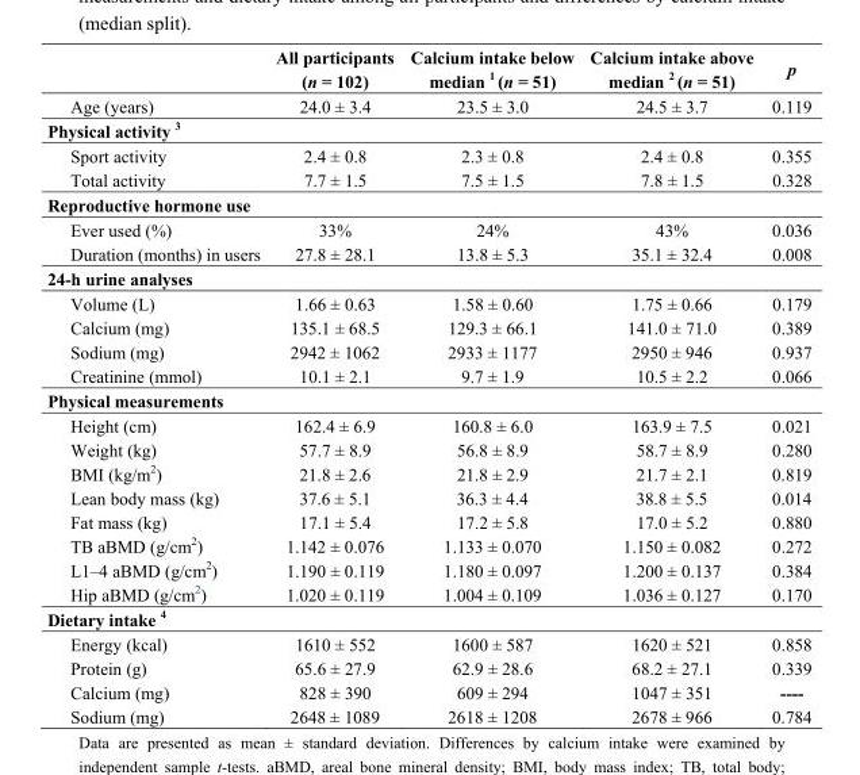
<table><thead><tr><td></td><td>All participants (n = 102)</td><td>Calcium intake below median <sup>1</sup> (n = 51)</td><td>Calcium intake above median <sup>2</sup> (n = 51)</td><td>p</td></tr></thead><tbody><tr><td>Age (years)</td><td>24.0 ± 3.4</td><td>23.5 ± 3.0</td><td>24.5 ± 3.7</td><td>0.119</td></tr><tr><td colspan="5">Physical activity <sup>3</sup></td></tr><tr><td>Sport activity</td><td>2.4 ± 0.8</td><td>2.3 ± 0.8</td><td>2.4 ± 0.8</td><td>0.355</td></tr><tr><td>Total activity</td><td>7.7 ± 1.5</td><td>7.5 ± 1.5</td><td>7.8 ± 1.5</td><td>0.328</td></tr><tr><td colspan="5">Reproductive hormone use</td></tr><tr><td>Ever used (%)</td><td>33%</td><td>24%</td><td>43%</td><td>0.036</td></tr><tr><td>Duration (months) in users</td><td>27.8 ± 28.1</td><td>13.8 ± 5.3</td><td>35.1 ± 32.4</td><td>0.008</td></tr><tr><td colspan="5">24-h urine analyses</td></tr><tr><td>Volume (L)</td><td>1.66 ± 0.63</td><td>1.58 ± 0.60</td><td>1.75 ± 0.66</td><td>0.179</td></tr><tr><td>Calcium (mg)</td><td>135.1 ± 68.5</td><td>129.3 ± 66.1</td><td>141.0 ± 71.0</td><td>0.389</td></tr><tr><td>Sodium (mg)</td><td>2942 ± 1062</td><td>2933 ± 1177</td><td>2950 ± 946</td><td>0.937</td></tr><tr><td>Creatinine (mmol)</td><td>10.1 ± 2.1</td><td>9.7 ± 1.9</td><td>10.5 ± 2.2</td><td>0.066</td></tr><tr><td colspan="5">Physical measurements</td></tr><tr><td>Height (cm)</td><td>162.4 ± 6.9</td><td>160.8 ± 6.0</td><td>163.9 ± 7.5</td><td>0.021</td></tr><tr><td>Weight (kg)</td><td>57.7 ± 8.9</td><td>56.8 ± 8.9</td><td>58.7 ± 8.9</td><td>0.280</td></tr><tr><td>BMI (kg/m<sup>2</sup>)</td><td>21.8 ± 2.6</td><td>21.8 ± 2.9</td><td>21.7 ± 2.1</td><td>0.819</td></tr><tr><td>Lean body mass (kg)</td><td>37.6 ± 5.1</td><td>36.3 ± 4.4</td><td>38.8 ± 5.5</td><td>0.014</td></tr><tr><td>Fat mass (kg)</td><td>17.1 ± 5.4</td><td>17.2 ± 5.8</td><td>17.0 ± 5.2</td><td>0.880</td></tr><tr><td>TB aBMD (g/cm<sup>2</sup>)</td><td>1.142 ± 0.076</td><td>1.133 ± 0.070</td><td>1.150 ± 0.082</td><td>0.272</td></tr><tr><td>L1–4 aBMD (g/cm<sup>2</sup>)</td><td>1.190 ± 0.119</td><td>1.180 ± 0.097</td><td>1.200 ± 0.137</td><td>0.384</td></tr><tr><td>Hip aBMD (g/cm<sup>2</sup>)</td><td>1.020 ± 0.119</td><td>1.004 ± 0.109</td><td>1.036 ± 0.127</td><td>0.170</td></tr><tr><td colspan="5">Dietary intake <sup>4</sup></td></tr><tr><td>Energy (kcal)</td><td>1610 ± 552</td><td>1600 ± 587</td><td>1620 ± 521</td><td>0.858</td></tr><tr><td>Protein (g)</td><td>65.6 ± 27.9</td><td>62.9 ± 28.6</td><td>68.2 ± 27.1</td><td>0.339</td></tr><tr><td>Calcium (mg)</td><td>828 ± 390</td><td>609 ± 294</td><td>1047 ± 351</td><td>----</td></tr><tr><td>Sodium (mg)</td><td>2648 ± 1089</td><td>2618 ± 1208</td><td>2678 ± 966</td><td>0.784</td></tr></tbody></table>